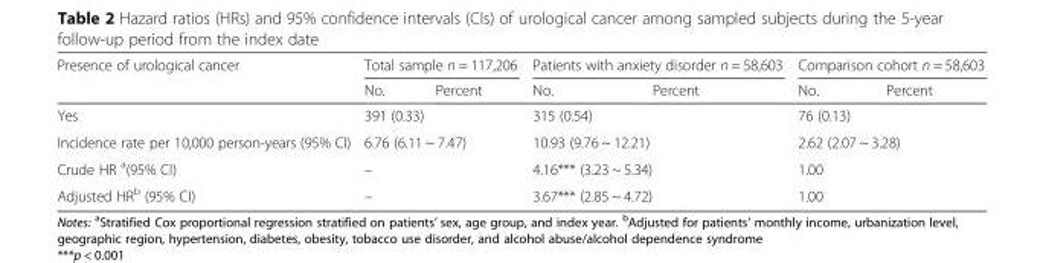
<table><thead><tr><td rowspan="2">Presence of urological cancer</td><td colspan="2">Total sample n = 117,206</td><td colspan="2">Patients with anxiety disorder n = 58,603</td><td colspan="2">Comparison cohort n = 58,603</td></tr><tr><td>No.</td><td>Percent</td><td>No.</td><td>Percent</td><td>No.</td><td>Percent</td></tr></thead><tbody><tr><td>Yes</td><td colspan="2">391 (0.33)</td><td colspan="2">315 (0.54)</td><td colspan="2">76 (0.13)</td></tr><tr><td>Incidence rate per 10,000 person-years (95% CI)</td><td colspan="2">6.76 (6.11 ~ 7.47)</td><td colspan="2">10.93 (9.76 ~ 12.21)</td><td colspan="2">2.62 (2.07 ~ 3.28)</td></tr><tr><td>Crude HR <sup>a</sup>(95% CI)</td><td colspan="2">–</td><td colspan="2">4.16*** (3.23 ~ 5.34)</td><td colspan="2">1.00</td></tr><tr><td>Adjusted HR<sup>b</sup> (95% CI)</td><td colspan="2">–</td><td colspan="2">3.67*** (2.85 ~ 4.72)</td><td colspan="2">1.00</td></tr></tbody></table>